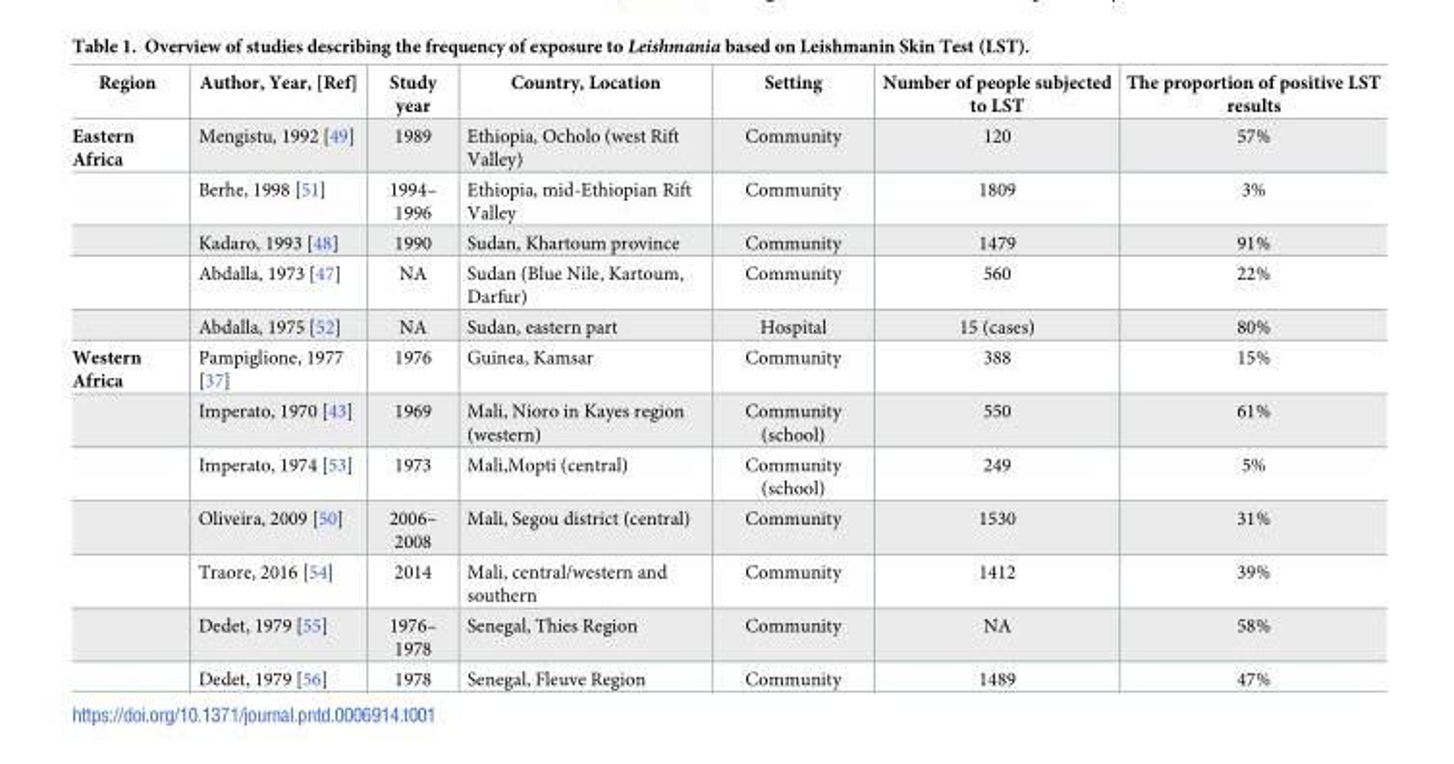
<table><thead><tr><td>Region</td><td>Author, Year, [Ref]</td><td>Study year</td><td>Country, Location</td><td>Setting</td><td>Number of people subjected to LST</td><td>The proportion of positive LST results</td></tr></thead><tbody><tr><td rowspan="5">Eastern Africa</td><td>Mengistu, 1992 [49]</td><td>1989</td><td>Ethiopia, Ocholo (west Rift Valley)</td><td>Community</td><td>120</td><td>57%</td></tr><tr><td>Berhe, 1998 [51]</td><td>1994– 1996</td><td>Ethiopia, mid-Ethiopian Rift Valley</td><td>Community</td><td>1809</td><td>3%</td></tr><tr><td>Kadaro, 1993 [48]</td><td>1990</td><td>Sudan, Khartoum province</td><td>Community</td><td>1479</td><td>91%</td></tr><tr><td>Abdalla, 1973 [47]</td><td>NA</td><td>Sudan (Blue Nile, Kartoum, Darfur)</td><td>Community</td><td>560</td><td>22%</td></tr><tr><td>Abdalla, 1975 [52]</td><td>NA</td><td>Sudan, eastern part</td><td>Hospital</td><td>15 (cases)</td><td>80%</td></tr><tr><td rowspan="7">Western Africa</td><td>Pampiglione, 1977 [37]</td><td>1976</td><td>Guinea, Kamsar</td><td>Community</td><td>388</td><td>15%</td></tr><tr><td>Imperato, 1970 [43]</td><td>1969</td><td>Mali, Nioro in Kayes region (western)</td><td>Community (school)</td><td>550</td><td>61%</td></tr><tr><td>Imperato, 1974 [53]</td><td>1973</td><td>Mali,Mopti (central)</td><td>Community (school)</td><td>249</td><td>5%</td></tr><tr><td>Oliveira, 2009 [50]</td><td>2006– 2008</td><td>Mali, Segou district (central)</td><td>Community</td><td>1530</td><td>31%</td></tr><tr><td>Traore, 2016 [54]</td><td>2014</td><td>Mali, central/western and southern</td><td>Community</td><td>1412</td><td>39%</td></tr><tr><td>Dedet, 1979 [55]</td><td>1976– 1978</td><td>Senegal, Thies Region</td><td>Community</td><td>NA</td><td>58%</td></tr><tr><td>Dedet, 1979 [56]</td><td>1978</td><td>Senegal, Fleuve Region</td><td>Community</td><td>1489</td><td>47%</td></tr></tbody></table>